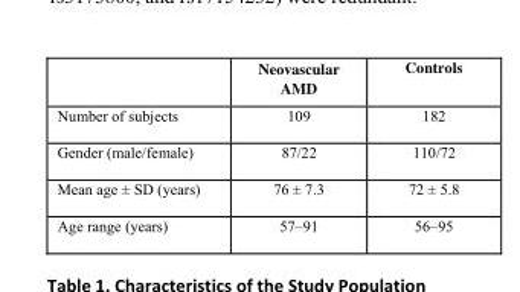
<table><thead><tr><td></td><td>Neovascular AMD</td><td>Controls</td></tr></thead><tbody><tr><td>Number of subjects</td><td>109</td><td>182</td></tr><tr><td>Gender (male/female)</td><td>87/22</td><td>110/72</td></tr><tr><td>Mean age ± SD (years)</td><td>76 ± 7.3</td><td>72 ± 5.8</td></tr><tr><td>Age range (years)</td><td>57–91</td><td>56–95</td></tr></tbody></table>